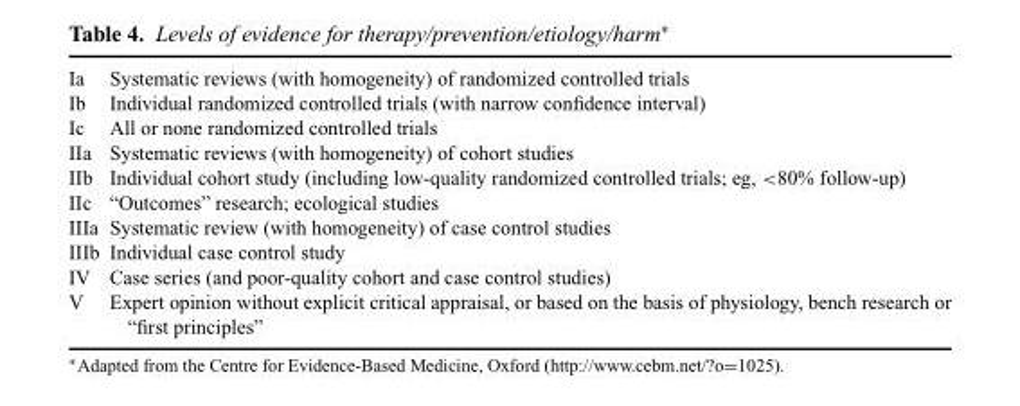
<table><tbody><tr><td>Ia</td><td>Systematic reviews (with homogeneity) of randomized controlled trials</td></tr><tr><td>Ib</td><td>Individual randomized controlled trials (with narrow confidence interval)</td></tr><tr><td>Ic</td><td>All or none randomized controlled trials</td></tr><tr><td>IIa</td><td>Systematic reviews (with homogeneity) of cohort studies</td></tr><tr><td>IIb</td><td>Individual cohort study (including low-quality randomized controlled trials; eg, &lt;80% follow-up)</td></tr><tr><td>IIc</td><td>“Outcomes” research; ecological studies</td></tr><tr><td>IIIa</td><td>Systematic review (with homogeneity) of case control studies</td></tr><tr><td>IIIb</td><td>Individual case control study</td></tr><tr><td>IV</td><td>Case series (and poor-quality cohort and case control studies)</td></tr><tr><td>V</td><td>Expert opinion without explicit critical appraisal, or based on the basis of physiology, bench research or “first principles”</td></tr></tbody></table>